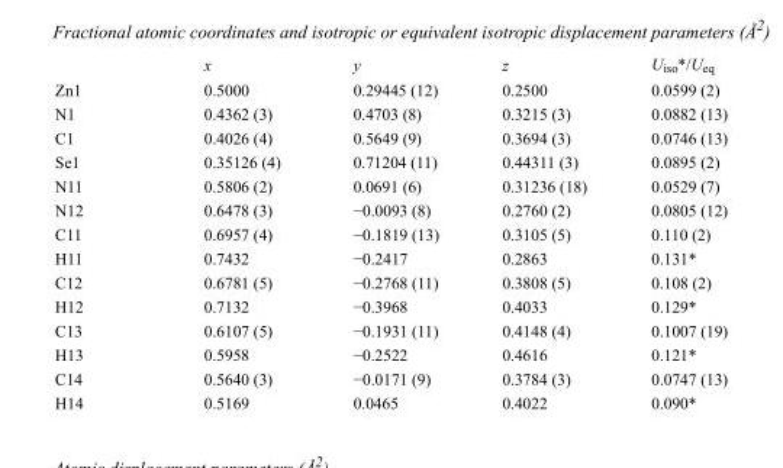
<table><thead><tr><td></td><td>x</td><td>y</td><td>z</td><td>U<sub>iso</sub>*/U<sub>eq</sub></td></tr></thead><tbody><tr><td>Zn1</td><td>0.5000</td><td>0.29445 (12)</td><td>0.2500</td><td>0.0599 (2)</td></tr><tr><td>N1</td><td>0.4362 (3)</td><td>0.4703 (8)</td><td>0.3215 (3)</td><td>0.0882 (13)</td></tr><tr><td>C1</td><td>0.4026 (4)</td><td>0.5649 (9)</td><td>0.3694 (3)</td><td>0.0746 (13)</td></tr><tr><td>Se1</td><td>0.35126 (4)</td><td>0.71204 (11)</td><td>0.44311 (3)</td><td>0.0895 (2)</td></tr><tr><td>N11</td><td>0.5806 (2)</td><td>0.0691 (6)</td><td>0.31236 (18)</td><td>0.0529 (7)</td></tr><tr><td>N12</td><td>0.6478 (3)</td><td>−0.0093 (8)</td><td>0.2760 (2)</td><td>0.0805 (12)</td></tr><tr><td>C11</td><td>0.6957 (4)</td><td>−0.1819 (13)</td><td>0.3105 (5)</td><td>0.110 (2)</td></tr><tr><td>H11</td><td>0.7432</td><td>−0.2417</td><td>0.2863</td><td>0.131*</td></tr><tr><td>C12</td><td>0.6781 (5)</td><td>−0.2768 (11)</td><td>0.3808 (5)</td><td>0.108 (2)</td></tr><tr><td>H12</td><td>0.7132</td><td>−0.3968</td><td>0.4033</td><td>0.129*</td></tr><tr><td>C13</td><td>0.6107 (5)</td><td>−0.1931 (11)</td><td>0.4148 (4)</td><td>0.1007 (19)</td></tr><tr><td>H13</td><td>0.5958</td><td>−0.2522</td><td>0.4616</td><td>0.121*</td></tr><tr><td>C14</td><td>0.5640 (3)</td><td>−0.0171 (9)</td><td>0.3784 (3)</td><td>0.0747 (13)</td></tr><tr><td>H14</td><td>0.5169</td><td>0.0465</td><td>0.4022</td><td>0.090*</td></tr></tbody></table>